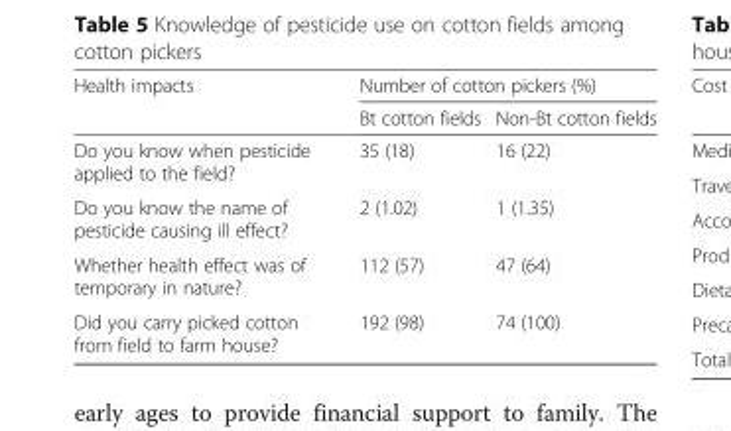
<table><thead><tr><td rowspan="2">Health impacts</td><td colspan="2">Number of cotton pickers (%)</td></tr><tr><td>Bt cotton fields</td><td>Non-Bt cotton fields</td></tr></thead><tbody><tr><td>Do you know when pesticide applied to the field?</td><td>35 (18)</td><td>16 (22)</td></tr><tr><td>Do you know the name of pesticide causing ill effect?</td><td>2 (1.02)</td><td>1 (1.35)</td></tr><tr><td>Whether health effect was of temporary in nature?</td><td>112 (57)</td><td>47 (64)</td></tr><tr><td>Did you carry picked cotton from field to farm house?</td><td>192 (98)</td><td>74 (100)</td></tr></tbody></table>